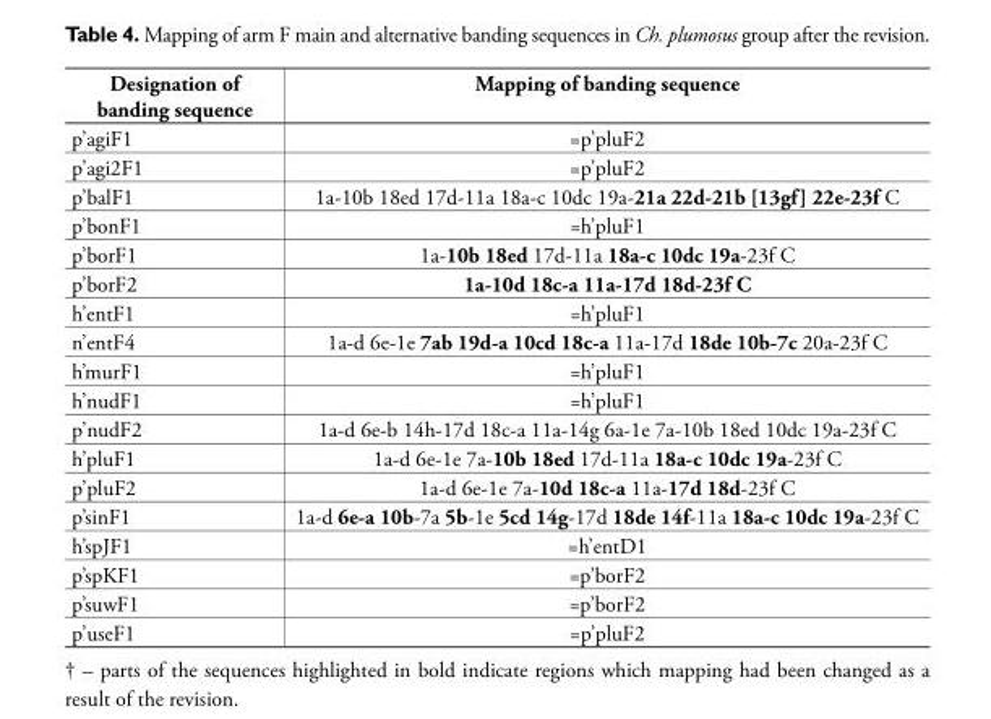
<table><thead><tr><td>Designation of banding sequence</td><td>Mapping of banding sequence</td></tr></thead><tbody><tr><td>p’agiF1</td><td>=p’pluF2</td></tr><tr><td>p’agi2F1</td><td>=p’pluF2</td></tr><tr><td>p’balF1</td><td>1a-10b 18ed 17d-11a 18a-c 10dc 19a-21a 22d-21b [13gf] 22e-23f C</td></tr><tr><td>p’bonF1</td><td>=h’pluF1</td></tr><tr><td>p’borF1</td><td>1a-10b 18ed 17d-11a 18a-c 10dc 19a-23f C</td></tr><tr><td>p’borF2</td><td>1a-10d 18c-a 11a-17d 18d-23f C</td></tr><tr><td>h’entF1</td><td>=h’pluF1</td></tr><tr><td>n’entF4</td><td>1a-d 6e-1e 7ab 19d-a 10cd 18c-a 11a-17d 18de 10b-7c 20a-23f C</td></tr><tr><td>h’murF1</td><td>=h’pluF1</td></tr><tr><td>h’nudF1</td><td>=h’pluF1</td></tr><tr><td>p’nudF2</td><td>1a-d 6e-b 14h-17d 18c-a 11a-14g 6a-1e 7a-10b 18ed 10dc 19a-23f C</td></tr><tr><td>h’pluF1</td><td>1a-d 6e-1e 7a-10b 18ed 17d-11a 18a-c 10dc 19a-23f C</td></tr><tr><td>p’pluF2</td><td>1a-d 6e-1e 7a-10d 18c-a 11a-17d 18d-23f C</td></tr><tr><td>p’sinF1</td><td>1a-d 6e-a 10b-7a 5b-1e 5cd 14g-17d 18de 14f-11a 18a-c 10dc 19a-23f C</td></tr><tr><td>h’spJF1</td><td>=h’entD1</td></tr><tr><td>p’spKF1</td><td>=p’borF2</td></tr><tr><td>p’suwF1</td><td>=p’borF2</td></tr><tr><td>p’useF1</td><td>=p’pluF2</td></tr></tbody></table>